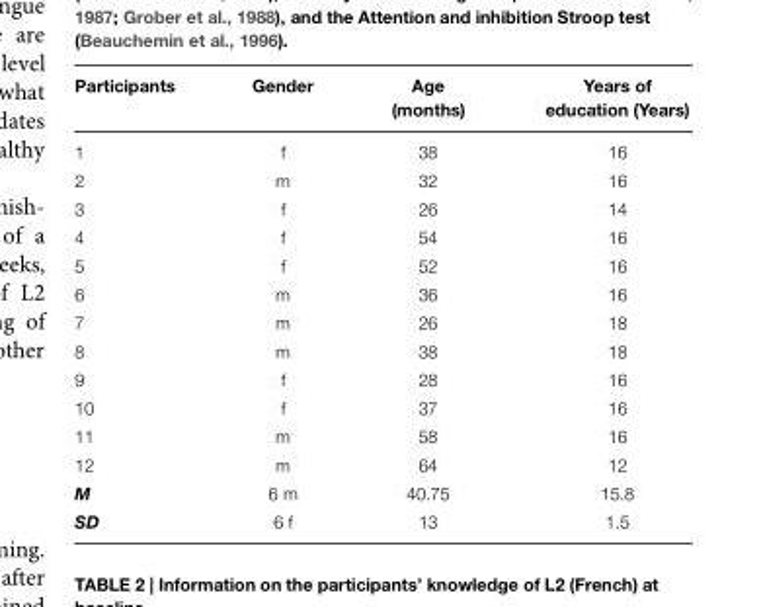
<table><thead><tr><td>Participants</td><td>Gender</td><td>Age (months)</td><td>Years of education (Years)</td></tr></thead><tbody><tr><td>1</td><td>f</td><td>38</td><td>16</td></tr><tr><td>2</td><td>m</td><td>32</td><td>16</td></tr><tr><td>3</td><td>f</td><td>26</td><td>14</td></tr><tr><td>4</td><td>f</td><td>54</td><td>16</td></tr><tr><td>5</td><td>f</td><td>52</td><td>16</td></tr><tr><td>6</td><td>m</td><td>36</td><td>16</td></tr><tr><td>7</td><td>m</td><td>26</td><td>18</td></tr><tr><td>8</td><td>m</td><td>38</td><td>18</td></tr><tr><td>9</td><td>f</td><td>28</td><td>16</td></tr><tr><td>10</td><td>f</td><td>37</td><td>16</td></tr><tr><td>11</td><td>m</td><td>58</td><td>16</td></tr><tr><td>12</td><td>m</td><td>64</td><td>12</td></tr><tr><td>M</td><td>6 m</td><td>40.75</td><td>15.8</td></tr><tr><td>SD</td><td>6 f</td><td>13</td><td>1.5</td></tr></tbody></table>